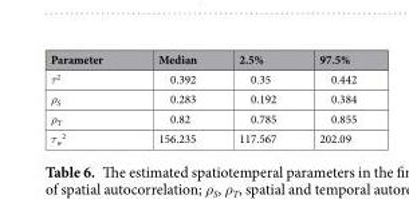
<table><thead><tr><td>Parameter</td><td>Median</td><td>2.5%</td><td>97.5%</td></tr></thead><tbody><tr><td>τ<sup>2</sup></td><td>0.392</td><td>0.35</td><td>0.442</td></tr><tr><td>ρ<sub>S</sub></td><td>0.283</td><td>0.192</td><td>0.384</td></tr><tr><td>ρ<sub>T</sub></td><td>0.82</td><td>0.785</td><td>0.855</td></tr><tr><td>τ<sub>w</sub> <sup>2</sup></td><td>156.235</td><td>117.567</td><td>202.09</td></tr></tbody></table>